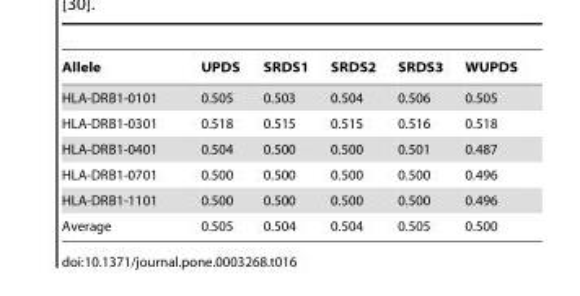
<table><thead><tr><td>Allele</td><td>UPDS</td><td>SRDS1</td><td>SRDS2</td><td>SRDS3</td><td>WUPDS</td></tr></thead><tbody><tr><td>HLA-DRB1-0101</td><td>0.505</td><td>0.503</td><td>0.504</td><td>0.506</td><td>0.505</td></tr><tr><td>HLA-DRB1-0301</td><td>0.518</td><td>0.515</td><td>0.515</td><td>0.516</td><td>0.518</td></tr><tr><td>HLA-DRB1-0401</td><td>0.504</td><td>0.500</td><td>0.500</td><td>0.501</td><td>0.487</td></tr><tr><td>HLA-DRB1-0701</td><td>0.500</td><td>0.500</td><td>0.500</td><td>0.500</td><td>0.496</td></tr><tr><td>HLA-DRB1-1101</td><td>0.500</td><td>0.500</td><td>0.500</td><td>0.500</td><td>0.496</td></tr><tr><td>Average</td><td>0.505</td><td>0.504</td><td>0.504</td><td>0.505</td><td>0.500</td></tr></tbody></table>